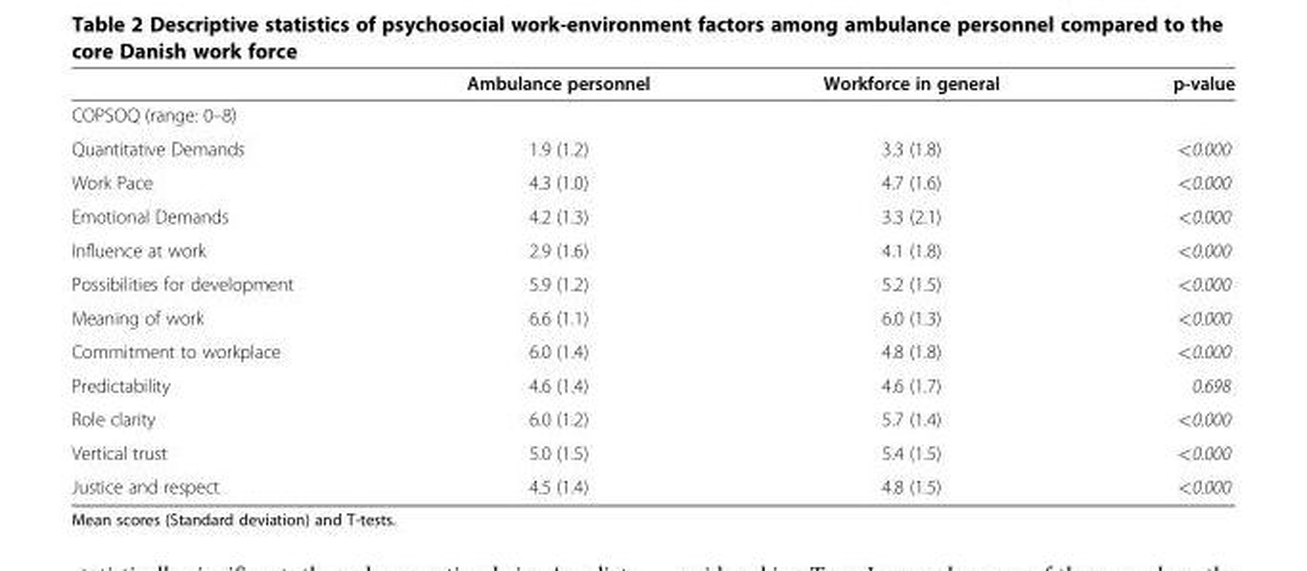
<table><thead><tr><td></td><td>Ambulance personnel</td><td>Workforce in general</td><td>p-value</td></tr></thead><tbody><tr><td colspan="4">COPSOQ (range: 0–8)</td></tr><tr><td>Quantitative Demands</td><td>1.9 (1.2)</td><td>3.3 (1.8)</td><td>&lt;0.000</td></tr><tr><td>Work Pace</td><td>4.3 (1.0)</td><td>4.7 (1.6)</td><td>&lt;0.000</td></tr><tr><td>Emotional Demands</td><td>4.2 (1.3)</td><td>3.3 (2.1)</td><td>&lt;0.000</td></tr><tr><td>Influence at work</td><td>2.9 (1.6)</td><td>4.1 (1.8)</td><td>&lt;0.000</td></tr><tr><td>Possibilities for development</td><td>5.9 (1.2)</td><td>5.2 (1.5)</td><td>&lt;0.000</td></tr><tr><td>Meaning of work</td><td>6.6 (1.1)</td><td>6.0 (1.3)</td><td>&lt;0.000</td></tr><tr><td>Commitment to workplace</td><td>6.0 (1.4)</td><td>4.8 (1.8)</td><td>&lt;0.000</td></tr><tr><td>Predictability</td><td>4.6 (1.4)</td><td>4.6 (1.7)</td><td>0.698</td></tr><tr><td>Role clarity</td><td>6.0 (1.2)</td><td>5.7 (1.4)</td><td>&lt;0.000</td></tr><tr><td>Vertical trust</td><td>5.0 (1.5)</td><td>5.4 (1.5)</td><td>&lt;0.000</td></tr><tr><td>Justice and respect</td><td>4.5 (1.4)</td><td>4.8 (1.5)</td><td>&lt;0.000</td></tr></tbody></table>